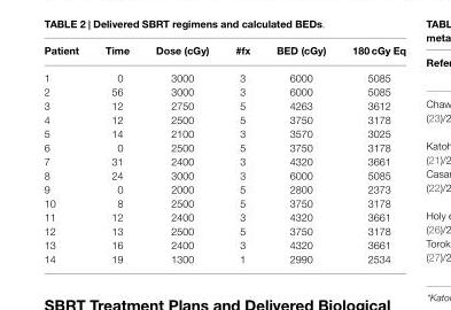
<table><thead><tr><td>Patient</td><td>Time</td><td>Dose (cGy)</td><td>#fx</td><td>BED (cGy)</td><td>180 cGy Eq</td></tr></thead><tbody><tr><td>1</td><td>0</td><td>3000</td><td>3</td><td>6000</td><td>5085</td></tr><tr><td>2</td><td>56</td><td>3000</td><td>3</td><td>6000</td><td>5085</td></tr><tr><td>3</td><td>12</td><td>2750</td><td>5</td><td>4263</td><td>3612</td></tr><tr><td>4</td><td>12</td><td>2500</td><td>5</td><td>3750</td><td>3178</td></tr><tr><td>5</td><td>14</td><td>2100</td><td>3</td><td>3570</td><td>3025</td></tr><tr><td>6</td><td>0</td><td>2500</td><td>5</td><td>3750</td><td>3178</td></tr><tr><td>7</td><td>31</td><td>2400</td><td>3</td><td>4320</td><td>3661</td></tr><tr><td>8</td><td>24</td><td>3000</td><td>3</td><td>6000</td><td>5085</td></tr><tr><td>9</td><td>0</td><td>2000</td><td>5</td><td>2800</td><td>2373</td></tr><tr><td>10</td><td>8</td><td>2500</td><td>5</td><td>3750</td><td>3178</td></tr><tr><td>11</td><td>12</td><td>2400</td><td>3</td><td>4320</td><td>3661</td></tr><tr><td>12</td><td>13</td><td>2500</td><td>5</td><td>3750</td><td>3178</td></tr><tr><td>13</td><td>16</td><td>2400</td><td>3</td><td>4320</td><td>3661</td></tr><tr><td>14</td><td>19</td><td>1300</td><td>1</td><td>2990</td><td>2534</td></tr></tbody></table>